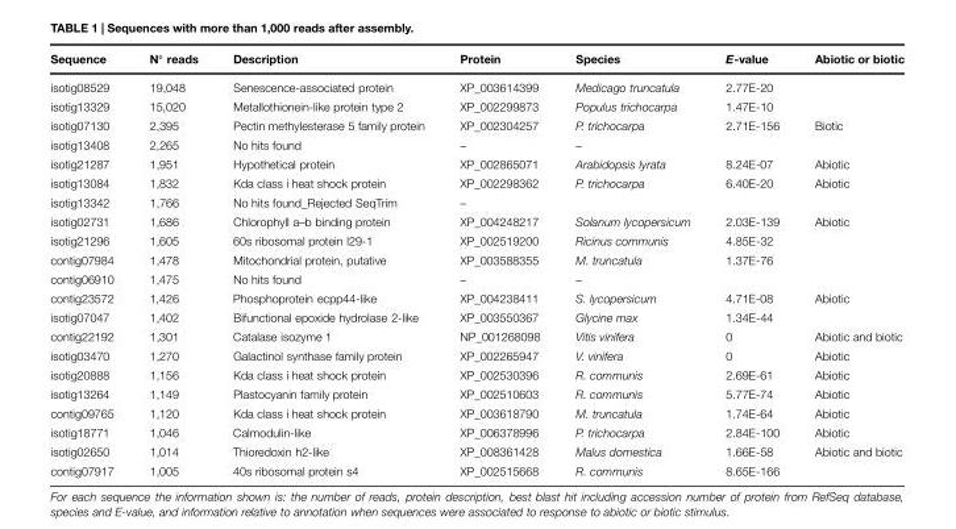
<table><thead><tr><td>Sequence</td><td>N◦ reads</td><td>Description</td><td>Protein</td><td>Species</td><td>E-value</td><td>Abiotic or biotic</td></tr></thead><tbody><tr><td>isotig08529</td><td>19,048</td><td>Senescence-associated protein</td><td>XP_003614399</td><td>Medicago truncatula</td><td>2.77E-20</td><td></td></tr><tr><td>isotig13329</td><td>15,020</td><td>Metallothionein-like protein type 2</td><td>XP_002299873</td><td>Populus trichocarpa</td><td>1.47E-10</td><td></td></tr><tr><td>isotig07130</td><td>2,395</td><td>Pectin methylesterase 5 family protein</td><td>XP_002304257</td><td>P. trichocarpa</td><td>2.71E-156</td><td>Biotic</td></tr><tr><td>isotig13408</td><td>2,265</td><td>No hits found</td><td>–</td><td>–</td><td></td><td></td></tr><tr><td>isotig21287</td><td>1,951</td><td>Hypothetical protein</td><td>XP_002865071</td><td>Arabidopsis lyrata</td><td>8.24E-07</td><td>Abiotic</td></tr><tr><td>isotig13084</td><td>1,832</td><td>Kda class i heat shock protein</td><td>XP_002298362</td><td>P. trichocarpa</td><td>6.40E-20</td><td>Abiotic</td></tr><tr><td>isotig13342</td><td>1,766</td><td>No hits found_Rejected SeqTrim</td><td>–</td><td></td><td></td><td></td></tr><tr><td>isotig02731</td><td>1,686</td><td>Chlorophyll a–b binding protein</td><td>XP_004248217</td><td>Solanum lycopersicum</td><td>2.03E-139</td><td>Abiotic</td></tr><tr><td>isotig21296</td><td>1,605</td><td>60s ribosomal protein l29-1</td><td>XP_002519200</td><td>Ricinus communis</td><td>4.85E-32</td><td></td></tr><tr><td>contig07984</td><td>1,478</td><td>Mitochondrial protein, putative</td><td>XP_003588355</td><td>M. truncatula</td><td>1.37E-76</td><td></td></tr><tr><td>contig06910</td><td>1,475</td><td>No hits found</td><td>–</td><td>–</td><td></td><td></td></tr><tr><td>contig23572</td><td>1,426</td><td>Phosphoprotein ecpp44-like</td><td>XP_004238411</td><td>S. lycopersicum</td><td>4.71E-08</td><td>Abiotic</td></tr><tr><td>isotig07047</td><td>1,402</td><td>Bifunctional epoxide hydrolase 2-like</td><td>XP_003550367</td><td>Glycine max</td><td>1.34E-44</td><td></td></tr><tr><td>contig22192</td><td>1,301</td><td>Catalase isozyme 1</td><td>NP_001268098</td><td>Vitis vinifera</td><td>0</td><td>Abiotic and biotic</td></tr><tr><td>isotig03470</td><td>1,270</td><td>Galactinol synthase family protein</td><td>XP_002265947</td><td>V. vinifera</td><td>0</td><td>Abiotic</td></tr><tr><td>isotig20888</td><td>1,156</td><td>Kda class i heat shock protein</td><td>XP_002530396</td><td>R. communis</td><td>2.69E-61</td><td>Abiotic</td></tr><tr><td>isotig13264</td><td>1,149</td><td>Plastocyanin family protein</td><td>XP_002510603</td><td>R. communis</td><td>5.77E-74</td><td>Abiotic</td></tr><tr><td>contig09765</td><td>1,120</td><td>Kda class i heat shock protein</td><td>XP_003618790</td><td>M. truncatula</td><td>1.74E-64</td><td>Abiotic</td></tr><tr><td>isotig18771</td><td>1,046</td><td>Calmodulin-like</td><td>XP_006378996</td><td>P. trichocarpa</td><td>2.84E-100</td><td>Abiotic</td></tr><tr><td>isotig02650</td><td>1,014</td><td>Thioredoxin h2-like</td><td>XP_008361428</td><td>Malus domestica</td><td>1.66E-58</td><td>Abiotic and biotic</td></tr><tr><td>contig07917</td><td>1,005</td><td>40s ribosomal protein s4</td><td>XP_002515668</td><td>R. communis</td><td>8.65E-166</td><td></td></tr></tbody></table>